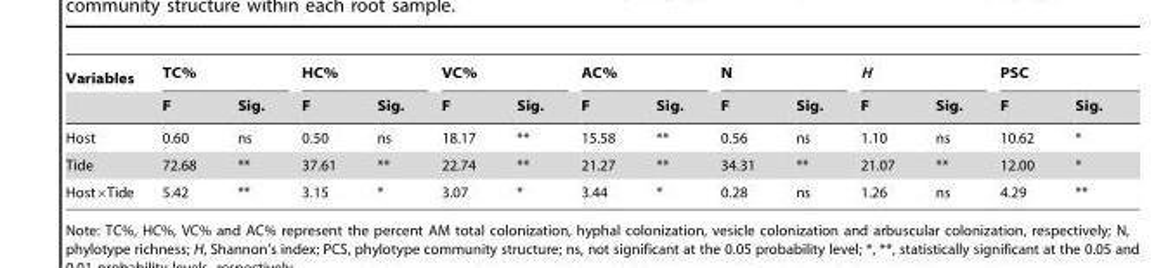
<table><thead><tr><td rowspan="2">Variables</td><td colspan="2">TC%</td><td colspan="2">HC%</td><td colspan="2">VC%</td><td colspan="2">AC%</td><td colspan="2">N</td><td colspan="2">H</td><td colspan="2">PSC</td></tr><tr><td>F</td><td>Sig.</td><td>F</td><td>Sig.</td><td>F</td><td>Sig.</td><td>F</td><td>Sig.</td><td>F</td><td>Sig.</td><td>F</td><td>Sig.</td><td>F</td><td>Sig.</td></tr></thead><tbody><tr><td>Host</td><td>0.60</td><td>ns</td><td>0.50</td><td>ns</td><td>18.17</td><td>**</td><td>15.58</td><td>**</td><td>0.56</td><td>ns</td><td>1.10</td><td>ns</td><td>10.62</td><td>*</td></tr><tr><td>Tide</td><td>72.68</td><td>**</td><td>37.61</td><td>**</td><td>22.74</td><td>**</td><td>21.27</td><td>**</td><td>34.31</td><td>**</td><td>21.07</td><td>**</td><td>12.00</td><td>*</td></tr><tr><td>Host×Tide</td><td>5.42</td><td>**</td><td>3.15</td><td>*</td><td>3.07</td><td>*</td><td>3.44</td><td>*</td><td>0.28</td><td>ns</td><td>1.26</td><td>ns</td><td>4.29</td><td>**</td></tr></tbody></table>